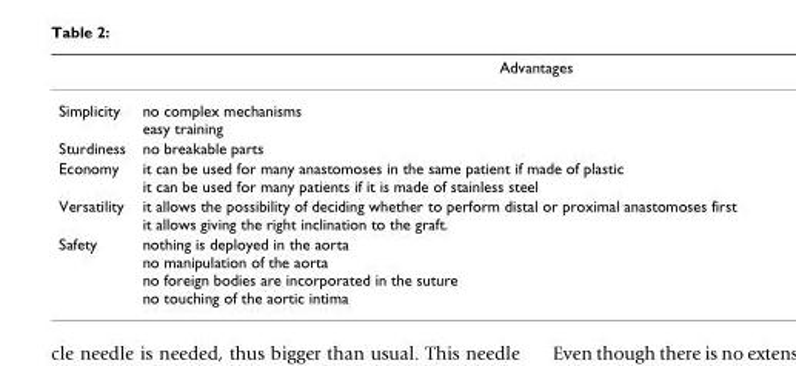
<table><thead><tr><td colspan="2">Advantages</td></tr><tr><td>Simplicity</td><td>no complex mechanisms easy training</td></tr></thead><tbody><tr><td>Sturdiness</td><td>no breakable parts</td></tr><tr><td>Economy</td><td>it can be used for many anastomoses in the same patient if made of plastic it can be used for many patients if it is made of stainless steel</td></tr><tr><td>Versatility</td><td>it allows the possibility of deciding whether to perform distal or proximal anastomoses first it allows giving the right inclination to the graft.</td></tr><tr><td>Safety</td><td>nothing is deployed in the aorta no manipulation of the aorta no foreign bodies are incorporated in the suture no touching of the aortic intima</td></tr></tbody></table>